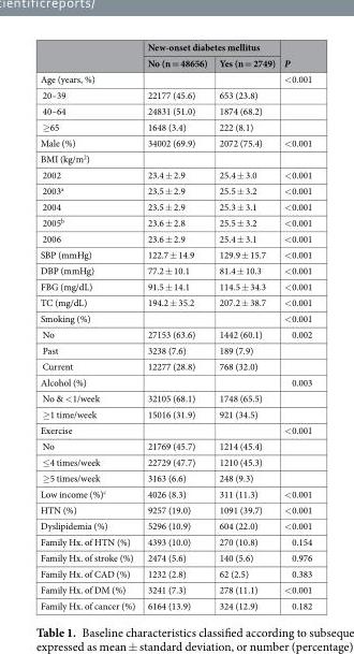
<table><thead><tr><td rowspan="2"></td><td colspan="2">New-onset diabetes mellitus</td><td rowspan="2">P</td></tr><tr><td>No (n = 48656)</td><td>Yes (n = 2749)</td></tr></thead><tbody><tr><td>Age (years, %)</td><td></td><td></td><td>&lt;0.001</td></tr><tr><td>20–39</td><td>22177 (45.6)</td><td>653 (23.8)</td><td></td></tr><tr><td>40–64</td><td>24831 (51.0)</td><td>1874 (68.2)</td><td></td></tr><tr><td>≥65</td><td>1648 (3.4)</td><td>222 (8.1)</td><td></td></tr><tr><td>Male (%)</td><td>34002 (69.9)</td><td>2072 (75.4)</td><td>&lt;0.001</td></tr><tr><td colspan="4">BMI (kg/m<sup>2</sup>)</td></tr><tr><td>2002</td><td>23.4 ± 2.9</td><td>25.4 ± 3.0</td><td>&lt;0.001</td></tr><tr><td>2003<sup>a</sup></td><td>23.5 ± 2.9</td><td>25.5 ± 3.2</td><td>&lt;0.001</td></tr><tr><td>2004</td><td>23.5 ± 2.9</td><td>25.3 ± 3.1</td><td>&lt;0.001</td></tr><tr><td>2005<sup>b</sup></td><td>23.6 ± 2.8</td><td>25.5 ± 3.2</td><td>&lt;0.001</td></tr><tr><td>2006</td><td>23.6 ± 2.9</td><td>25.4 ± 3.1</td><td>&lt;0.001</td></tr><tr><td>SBP (mmHg)</td><td>122.7 ± 14.9</td><td>129.9 ± 15.7</td><td>&lt;0.001</td></tr><tr><td>DBP (mmHg)</td><td>77.2 ± 10.1</td><td>81.4 ± 10.3</td><td>&lt;0.001</td></tr><tr><td>FBG (mg/dL)</td><td>91.5 ± 14.1</td><td>114.5 ± 34.3</td><td>&lt;0.001</td></tr><tr><td>TC (mg/dL)</td><td>194.2 ± 35.2</td><td>207.2 ± 38.7</td><td>&lt;0.001</td></tr><tr><td>Smoking (%)</td><td></td><td></td><td>&lt;0.001</td></tr><tr><td>No</td><td>27153 (63.6)</td><td>1442 (60.1)</td><td>0.002</td></tr><tr><td>Past</td><td>3238 (7.6)</td><td>189 (7.9)</td><td></td></tr><tr><td>Current</td><td>12277 (28.8)</td><td>768 (32.0)</td><td></td></tr><tr><td>Alcohol (%)</td><td></td><td></td><td>0.003</td></tr><tr><td>No &amp; &lt;1/week</td><td>32105 (68.1)</td><td>1748 (65.5)</td><td></td></tr><tr><td>≥1 time/week</td><td>15016 (31.9)</td><td>921 (34.5)</td><td></td></tr><tr><td>Exercise</td><td></td><td></td><td>&lt;0.001</td></tr><tr><td>No</td><td>21769 (45.7)</td><td>1214 (45.4)</td><td></td></tr><tr><td>≤4 times/week</td><td>22729 (47.7)</td><td>1210 (45.3)</td><td></td></tr><tr><td>≥5 times/week</td><td>3163 (6.6)</td><td>248 (9.3)</td><td></td></tr><tr><td>Low income (%)<sup>c</sup></td><td>4026 (8.3)</td><td>311 (11.3)</td><td>&lt;0.001</td></tr><tr><td>HTN (%)</td><td>9257 (19.0)</td><td>1091 (39.7)</td><td>&lt;0.001</td></tr><tr><td>Dyslipidemia (%)</td><td>5296 (10.9)</td><td>604 (22.0)</td><td>&lt;0.001</td></tr><tr><td>Family Hx. of HTN (%)</td><td>4393 (10.0)</td><td>270 (10.8)</td><td>0.154</td></tr><tr><td>Family Hx. of stroke (%)</td><td>2474 (5.6)</td><td>140 (5.6)</td><td>0.976</td></tr><tr><td>Family Hx. of CAD (%)</td><td>1232 (2.8)</td><td>62 (2.5)</td><td>0.383</td></tr><tr><td>Family Hx. of DM (%)</td><td>3241 (7.3)</td><td>278 (11.1)</td><td>&lt;0.001</td></tr><tr><td>Family Hx. of cancer (%)</td><td>6164 (13.9)</td><td>324 (12.9)</td><td>0.182</td></tr></tbody></table>